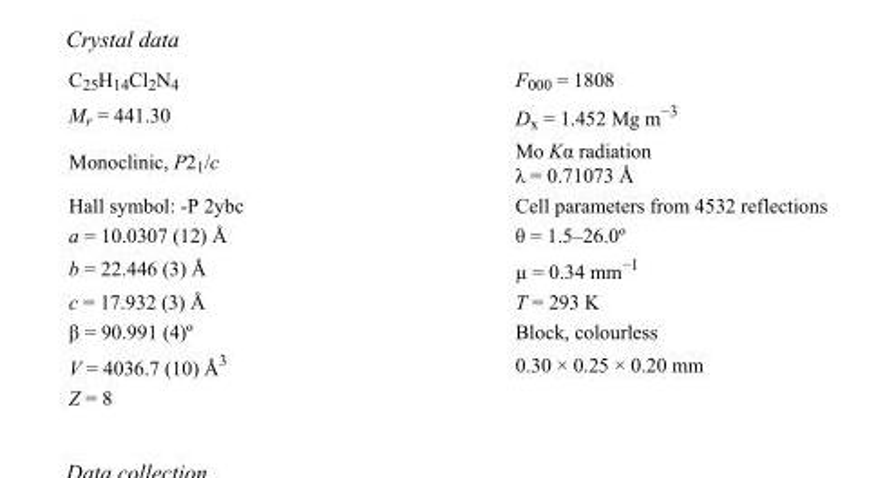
<table><tbody><tr><td>C<sub>25</sub>H<sub>14</sub>Cl<sub>2</sub>N<sub>4</sub></td><td>F000 = 1808</td></tr><tr><td>M<sub>r</sub> = 441.30</td><td>D<sub>x</sub> = 1.452 Mg m<sup>−3</sup></td></tr><tr><td>Monoclinic, P2<sub>1</sub>/c</td><td>Mo Kα radiation λ = 0.71073 Å</td></tr><tr><td>Hall symbol: -P 2ybc</td><td>Cell parameters from 4532 reflections</td></tr><tr><td>a = 10.0307 (12) Å</td><td>θ = 1.5–26.0º</td></tr><tr><td>b = 22.446 (3) Å</td><td>µ = 0.34 mm<sup>−1</sup></td></tr><tr><td>c = 17.932 (3) Å</td><td>T = 293 K</td></tr><tr><td>β = 90.991 (4)º</td><td>Block, colourless</td></tr><tr><td>V = 4036.7 (10) Å<sup>3</sup></td><td>0.30 × 0.25 × 0.20 mm</td></tr><tr><td>Z = 8</td><td></td></tr></tbody></table>